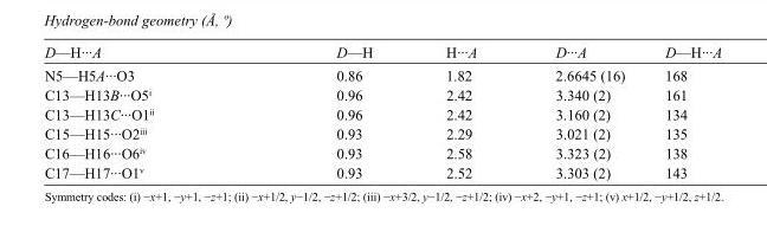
<table><tbody><tr><td>D—H···A</td><td>D—H</td><td>H···A</td><td>D···A</td><td>D—H···A</td></tr><tr><td>N5—H5A···O3</td><td>0.86</td><td>1.82</td><td>2.6645 (16)</td><td>168</td></tr><tr><td>C13—H13B···O5<sup>i</sup></td><td>0.96</td><td>2.42</td><td>3.340 (2)</td><td>161</td></tr><tr><td>C13—H13C···O1<sup>ii</sup></td><td>0.96</td><td>2.42</td><td>3.160 (2)</td><td>134</td></tr><tr><td>C15—H15···O2<sup>iii</sup></td><td>0.93</td><td>2.29</td><td>3.021 (2)</td><td>135</td></tr><tr><td>C16—H16···O6<sup>iv</sup></td><td>0.93</td><td>2.58</td><td>3.323 (2)</td><td>138</td></tr><tr><td>C17—H17···O1<sup>v</sup></td><td>0.93</td><td>2.52</td><td>3.303 (2)</td><td>143</td></tr></tbody></table>